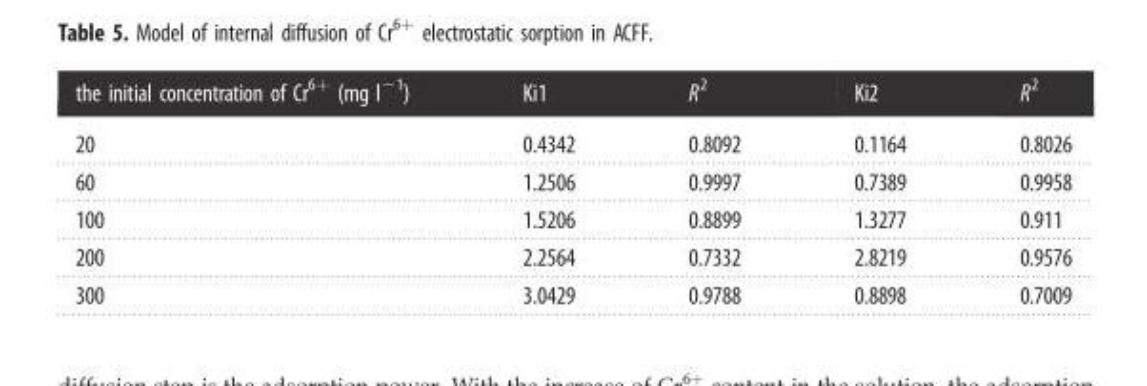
<table><thead><tr><td>the initial concentration of Cr<sup>6+</sup> (mg l<sup>−1</sup>)</td><td>Ki1</td><td>R<sup>2</sup></td><td>Ki2</td><td>R<sup>2</sup></td></tr></thead><tbody><tr><td>20</td><td>0.4342</td><td>0.8092</td><td>0.1164</td><td>0.8026</td></tr><tr><td>60</td><td>1.2506</td><td>0.9997</td><td>0.7389</td><td>0.9958</td></tr><tr><td>100</td><td>1.5206</td><td>0.8899</td><td>1.3277</td><td>0.911</td></tr><tr><td>200</td><td>2.2564</td><td>0.7332</td><td>2.8219</td><td>0.9576</td></tr><tr><td>300</td><td>3.0429</td><td>0.9788</td><td>0.8898</td><td>0.7009</td></tr></tbody></table>